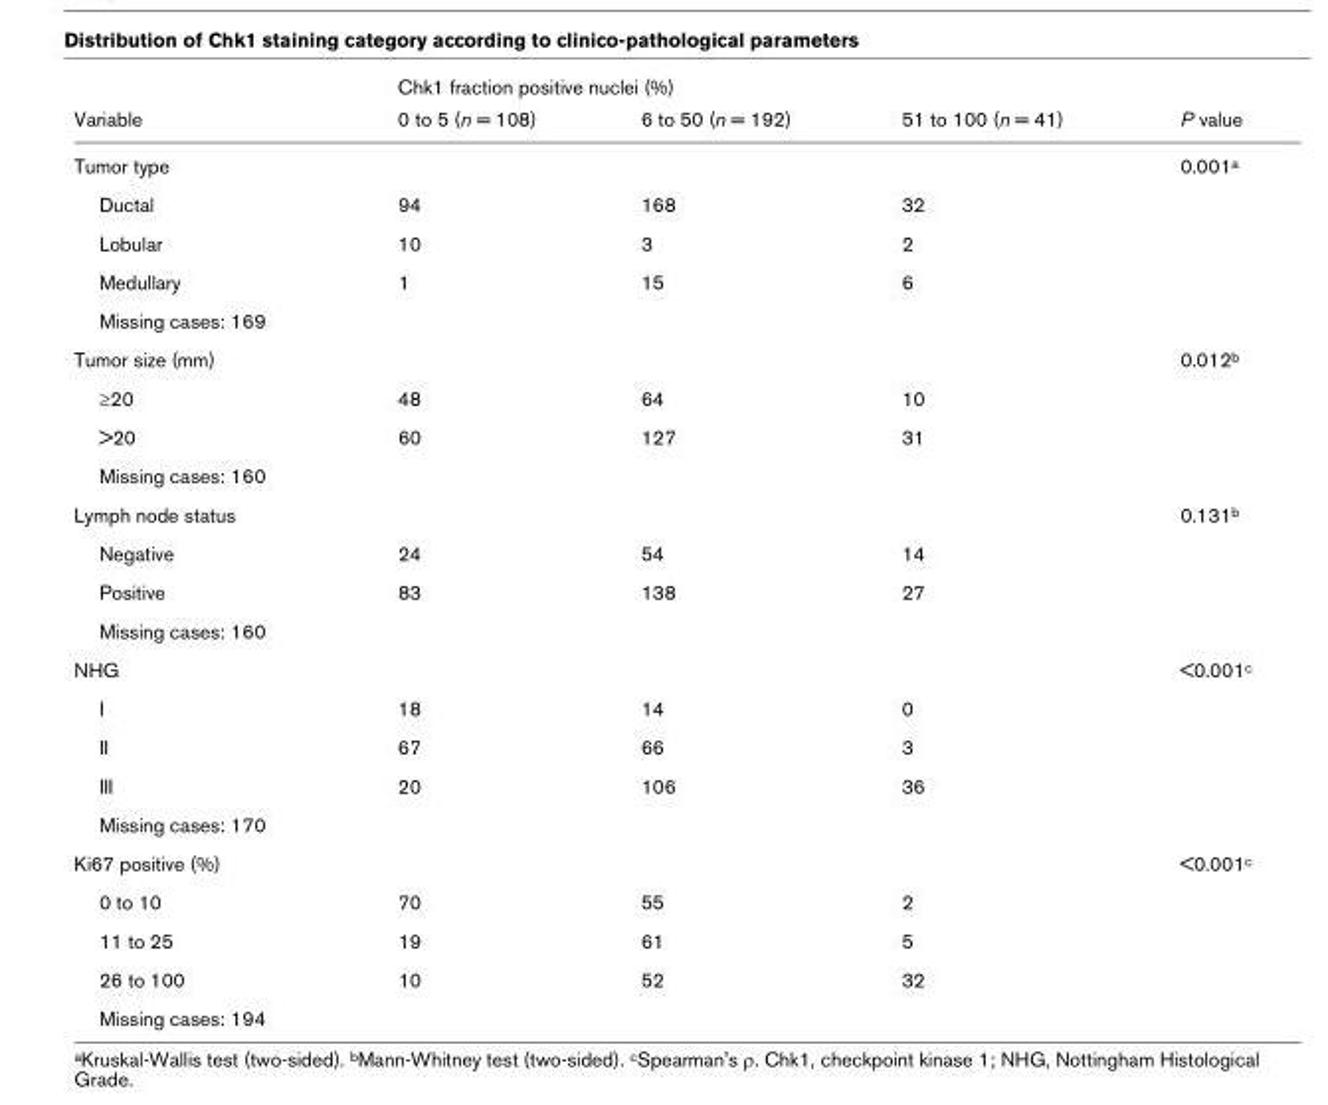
<table><thead><tr><td rowspan="2">Variable</td><td colspan="4">Chk1 fraction positive nuclei (%)</td></tr><tr><td>0 to 5 (n = 108)</td><td>6 to 50 (n = 192)</td><td>51 to 100 (n = 41)</td><td>P value</td></tr></thead><tbody><tr><td>Tumor type</td><td></td><td></td><td></td><td>0.001<sup>a</sup></td></tr><tr><td>Ductal</td><td>94</td><td>168</td><td>32</td><td></td></tr><tr><td>Lobular</td><td>10</td><td>3</td><td>2</td><td></td></tr><tr><td>Medullary</td><td>1</td><td>15</td><td>6</td><td></td></tr><tr><td colspan="5">Missing cases: 169</td></tr><tr><td>Tumor size (mm)</td><td></td><td></td><td></td><td>0.012<sup>b</sup></td></tr><tr><td>≥20</td><td>48</td><td>64</td><td>10</td><td></td></tr><tr><td>&gt;20</td><td>60</td><td>127</td><td>31</td><td></td></tr><tr><td colspan="5">Missing cases: 160</td></tr><tr><td>Lymph node status</td><td></td><td></td><td></td><td>0.131<sup>b</sup></td></tr><tr><td>Negative</td><td>24</td><td>54</td><td>14</td><td></td></tr><tr><td>Positive</td><td>83</td><td>138</td><td>27</td><td></td></tr><tr><td colspan="5">Missing cases: 160</td></tr><tr><td>NHG</td><td></td><td></td><td></td><td>&lt;0.001<sup>c</sup></td></tr><tr><td>I</td><td>18</td><td>14</td><td>0</td><td></td></tr><tr><td>II</td><td>67</td><td>66</td><td>3</td><td></td></tr><tr><td>III</td><td>20</td><td>106</td><td>36</td><td></td></tr><tr><td colspan="5">Missing cases: 170</td></tr><tr><td>Ki67 positive (%)</td><td></td><td></td><td></td><td>&lt;0.001<sup>c</sup></td></tr><tr><td>0 to 10</td><td>70</td><td>55</td><td>2</td><td></td></tr><tr><td>11 to 25</td><td>19</td><td>61</td><td>5</td><td></td></tr><tr><td>26 to 100</td><td>10</td><td>52</td><td>32</td><td></td></tr><tr><td>Missing cases: 194</td><td></td><td></td><td></td><td></td></tr></tbody></table>